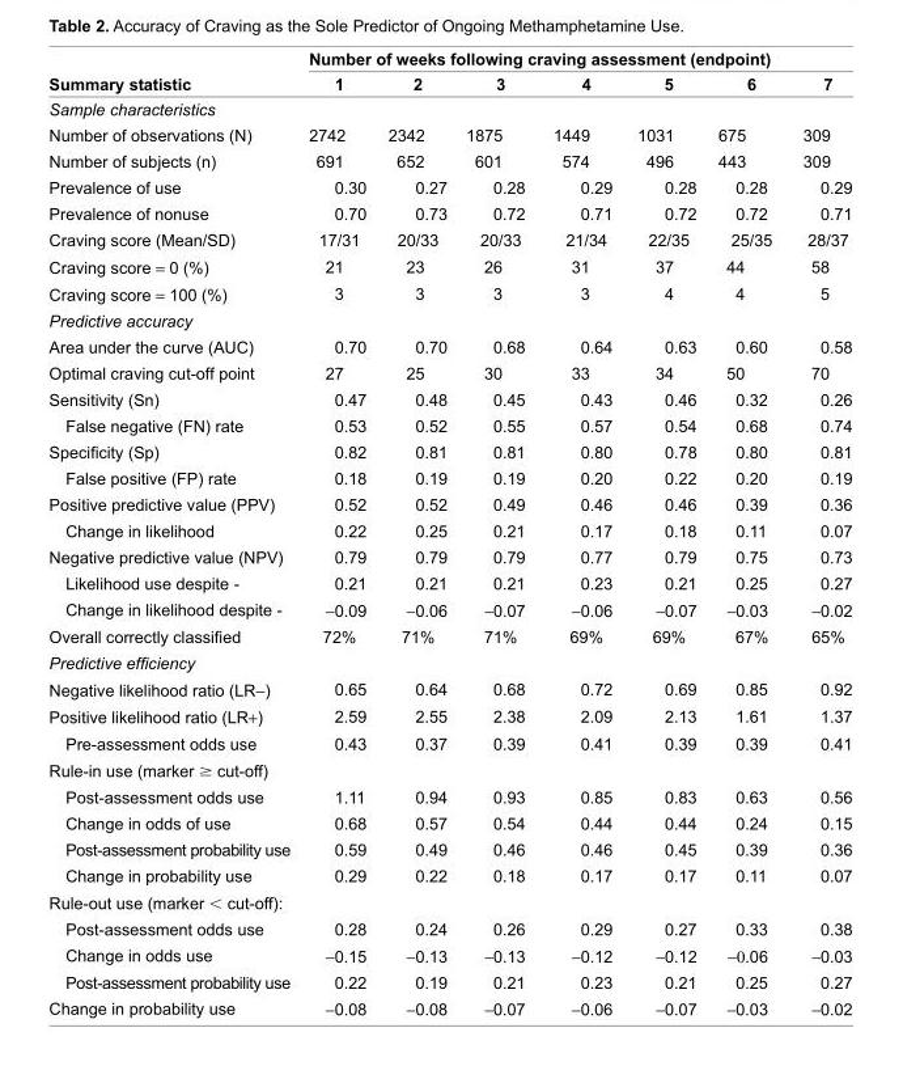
<table><thead><tr><td rowspan="2">Summary statistic</td><td colspan="7">Number of weeks following craving assessment (endpoint)</td></tr><tr><td>1</td><td>2</td><td>3</td><td>4</td><td>5</td><td>6</td><td>7</td></tr></thead><tbody><tr><td colspan="8">Sample characteristics</td></tr><tr><td>Number of observations (N)</td><td>2742</td><td>2342</td><td>1875</td><td>1449</td><td>1031</td><td>675</td><td>309</td></tr><tr><td>Number of subjects (n)</td><td>691</td><td>652</td><td>601</td><td>574</td><td>496</td><td>443</td><td>309</td></tr><tr><td>Prevalence of use</td><td>0.30</td><td>0.27</td><td>0.28</td><td>0.29</td><td>0.28</td><td>0.28</td><td>0.29</td></tr><tr><td>Prevalence of nonuse</td><td>0.70</td><td>0.73</td><td>0.72</td><td>0.71</td><td>0.72</td><td>0.72</td><td>0.71</td></tr><tr><td>Craving score (Mean/SD)</td><td>17/31</td><td>20/33</td><td>20/33</td><td>21/34</td><td>22/35</td><td>25/35</td><td>28/37</td></tr><tr><td>Craving score = 0 (%)</td><td>21</td><td>23</td><td>26</td><td>31</td><td>37</td><td>44</td><td>58</td></tr><tr><td>Craving score = 100 (%)</td><td>3</td><td>3</td><td>3</td><td>3</td><td>4</td><td>4</td><td>5</td></tr><tr><td colspan="8">Predictive accuracy</td></tr><tr><td>Area under the curve (AUC)</td><td>0.70</td><td>0.70</td><td>0.68</td><td>0.64</td><td>0.63</td><td>0.60</td><td>0.58</td></tr><tr><td>Optimal craving cut-off point</td><td>27</td><td>25</td><td>30</td><td>33</td><td>34</td><td>50</td><td>70</td></tr><tr><td>Sensitivity (Sn)</td><td>0.47</td><td>0.48</td><td>0.45</td><td>0.43</td><td>0.46</td><td>0.32</td><td>0.26</td></tr><tr><td>False negative (FN) rate</td><td>0.53</td><td>0.52</td><td>0.55</td><td>0.57</td><td>0.54</td><td>0.68</td><td>0.74</td></tr><tr><td>Specifi city (Sp)</td><td>0.82</td><td>0.81</td><td>0.81</td><td>0.80</td><td>0.78</td><td>0.80</td><td>0.81</td></tr><tr><td>False positive (FP) rate</td><td>0.18</td><td>0.19</td><td>0.19</td><td>0.20</td><td>0.22</td><td>0.20</td><td>0.19</td></tr><tr><td>Positive predictive value (PPV)</td><td>0.52</td><td>0.52</td><td>0.49</td><td>0.46</td><td>0.46</td><td>0.39</td><td>0.36</td></tr><tr><td>Change in likelihood</td><td>0.22</td><td>0.25</td><td>0.21</td><td>0.17</td><td>0.18</td><td>0.11</td><td>0.07</td></tr><tr><td>Negative predictive value (NPV)</td><td>0.79</td><td>0.79</td><td>0.79</td><td>0.77</td><td>0.79</td><td>0.75</td><td>0.73</td></tr><tr><td>Likelihood use despite -</td><td>0.21</td><td>0.21</td><td>0.21</td><td>0.23</td><td>0.21</td><td>0.25</td><td>0.27</td></tr><tr><td>Change in likelihood despite -</td><td>−0.09</td><td>−0.06</td><td>−0.07</td><td>−0.06</td><td>−0.07</td><td>−0.03</td><td>−0.02</td></tr><tr><td>Overall correctly classifi ed</td><td>72%</td><td>71%</td><td>71%</td><td>69%</td><td>69%</td><td>67%</td><td>65%</td></tr><tr><td colspan="8">Predictive effi ciency</td></tr><tr><td>Negative likelihood ratio (LR−)</td><td>0.65</td><td>0.64</td><td>0.68</td><td>0.72</td><td>0.69</td><td>0.85</td><td>0.92</td></tr><tr><td>Positive likelihood ratio (LR+)</td><td>2.59</td><td>2.55</td><td>2.38</td><td>2.09</td><td>2.13</td><td>1.61</td><td>1.37</td></tr><tr><td>Pre-assessment odds use</td><td>0.43</td><td>0.37</td><td>0.39</td><td>0.41</td><td>0.39</td><td>0.39</td><td>0.41</td></tr><tr><td colspan="8">Rule-in use (marker ≥ cut-off)</td></tr><tr><td>Post-assessment odds use</td><td>1.11</td><td>0.94</td><td>0.93</td><td>0.85</td><td>0.83</td><td>0.63</td><td>0.56</td></tr><tr><td>Change in odds of use</td><td>0.68</td><td>0.57</td><td>0.54</td><td>0.44</td><td>0.44</td><td>0.24</td><td>0.15</td></tr><tr><td>Post-assessment probability use</td><td>0.59</td><td>0.49</td><td>0.46</td><td>0.46</td><td>0.45</td><td>0.39</td><td>0.36</td></tr><tr><td>Change in probability use</td><td>0.29</td><td>0.22</td><td>0.18</td><td>0.17</td><td>0.17</td><td>0.11</td><td>0.07</td></tr><tr><td colspan="8">Rule-out use (marker &lt; cut-off):</td></tr><tr><td>Post-assessment odds use</td><td>0.28</td><td>0.24</td><td>0.26</td><td>0.29</td><td>0.27</td><td>0.33</td><td>0.38</td></tr><tr><td>Change in odds use</td><td>−0.15</td><td>−0.13</td><td>−0.13</td><td>−0.12</td><td>−0.12</td><td>−0.06</td><td>−0.03</td></tr><tr><td>Post-assessment probability use</td><td>0.22</td><td>0.19</td><td>0.21</td><td>0.23</td><td>0.21</td><td>0.25</td><td>0.27</td></tr><tr><td>Change in probability use</td><td>−0.08</td><td>−0.08</td><td>−0.07</td><td>−0.06</td><td>−0.07</td><td>−0.03</td><td>−0.02</td></tr></tbody></table>